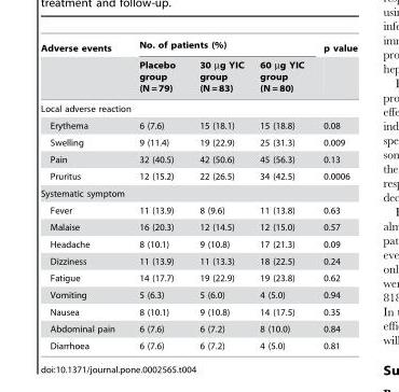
<table><thead><tr><td rowspan="2">Adverse events</td><td colspan="3">No. of patients (%)</td><td rowspan="2">p value</td></tr><tr><td>Placebo group (N = 79)</td><td>30 µg YIC group (N = 83)</td><td>60 µg YIC group (N = 80)</td></tr></thead><tbody><tr><td colspan="5">Local adverse reaction</td></tr><tr><td>Erythema</td><td>6 (7.6)</td><td>15 (18.1)</td><td>15 (18.8)</td><td>0.08</td></tr><tr><td>Swelling</td><td>9 (11.4)</td><td>19 (22.9)</td><td>25 (31.3)</td><td>0.009</td></tr><tr><td>Pain</td><td>32 (40.5)</td><td>42 (50.6)</td><td>45 (56.3)</td><td>0.13</td></tr><tr><td>Pruritus</td><td>12 (15.2)</td><td>22 (26.5)</td><td>34 (42.5)</td><td>0.0006</td></tr><tr><td colspan="5">Systematic symptom</td></tr><tr><td>Fever</td><td>11 (13.9)</td><td>8 (9.6)</td><td>11 (13.8)</td><td>0.63</td></tr><tr><td>Malaise</td><td>16 (20.3)</td><td>12 (14.5)</td><td>12 (15.0)</td><td>0.57</td></tr><tr><td>Headache</td><td>8 (10.1)</td><td>9 (10.8)</td><td>17 (21.3)</td><td>0.09</td></tr><tr><td>Dizziness</td><td>11 (13.9)</td><td>11 (13.3)</td><td>18 (22.5)</td><td>0.24</td></tr><tr><td>Fatigue</td><td>14 (17.7)</td><td>19 (22.9)</td><td>19 (23.8)</td><td>0.62</td></tr><tr><td>Vomiting</td><td>5 (6.3)</td><td>5 (6.0)</td><td>4 (5.0)</td><td>0.94</td></tr><tr><td>Nausea</td><td>8 (10.1)</td><td>9 (10.8)</td><td>14 (17.5)</td><td>0.35</td></tr><tr><td>Abdominal pain</td><td>6 (7.6)</td><td>6 (7.2)</td><td>8 (10.0)</td><td>0.84</td></tr><tr><td>Diarrhoea</td><td>6 (7.6)</td><td>6 (7.2)</td><td>4 (5.0)</td><td>0.81</td></tr></tbody></table>